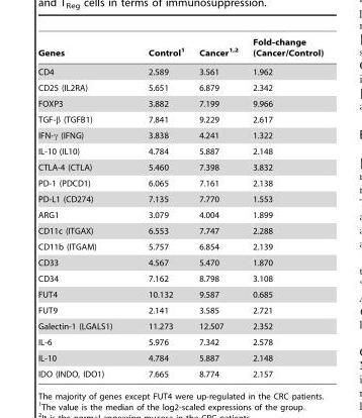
<table><thead><tr><td>Genes</td><td>Control<sup>1</sup></td><td>Cancer<sup>1,</sup>2</td><td>Fold-change (Cancer/Control)</td></tr></thead><tbody><tr><td>CD4</td><td>2.589</td><td>3.561</td><td>1.962</td></tr><tr><td>CD25 (IL2RA)</td><td>5.651</td><td>6.879</td><td>2.342</td></tr><tr><td>FOXP3</td><td>3.882</td><td>7.199</td><td>9.966</td></tr><tr><td>TGF-β (TGFB1)</td><td>7.841</td><td>9.229</td><td>2.617</td></tr><tr><td>IFN-γ (IFNG)</td><td>3.838</td><td>4.241</td><td>1.322</td></tr><tr><td>IL-10 (IL10)</td><td>4.784</td><td>5.887</td><td>2.148</td></tr><tr><td>CTLA-4 (CTLA)</td><td>5.460</td><td>7.398</td><td>3.832</td></tr><tr><td>PD-1 (PDCD1)</td><td>6.065</td><td>7.161</td><td>2.138</td></tr><tr><td>PD-L1 (CD274)</td><td>7.135</td><td>7.770</td><td>1.553</td></tr><tr><td>ARG1</td><td>3.079</td><td>4.004</td><td>1.899</td></tr><tr><td>CD11c (ITGAX)</td><td>6.553</td><td>7.747</td><td>2.288</td></tr><tr><td>CD11b (ITGAM)</td><td>5.757</td><td>6.854</td><td>2.139</td></tr><tr><td>CD33</td><td>4.567</td><td>5.470</td><td>1.870</td></tr><tr><td>CD34</td><td>7.162</td><td>8.798</td><td>3.108</td></tr><tr><td>FUT4</td><td>10.132</td><td>9.587</td><td>0.685</td></tr><tr><td>FUT9</td><td>2.141</td><td>3.585</td><td>2.721</td></tr><tr><td>Galectin-1 (LGALS1)</td><td>11.273</td><td>12.507</td><td>2.352</td></tr><tr><td>IL-6</td><td>5.976</td><td>7.342</td><td>2.578</td></tr><tr><td>IL-10</td><td>4.784</td><td>5.887</td><td>2.148</td></tr><tr><td>IDO (INDO, IDO1)</td><td>7.665</td><td>8.774</td><td>2.157</td></tr></tbody></table>